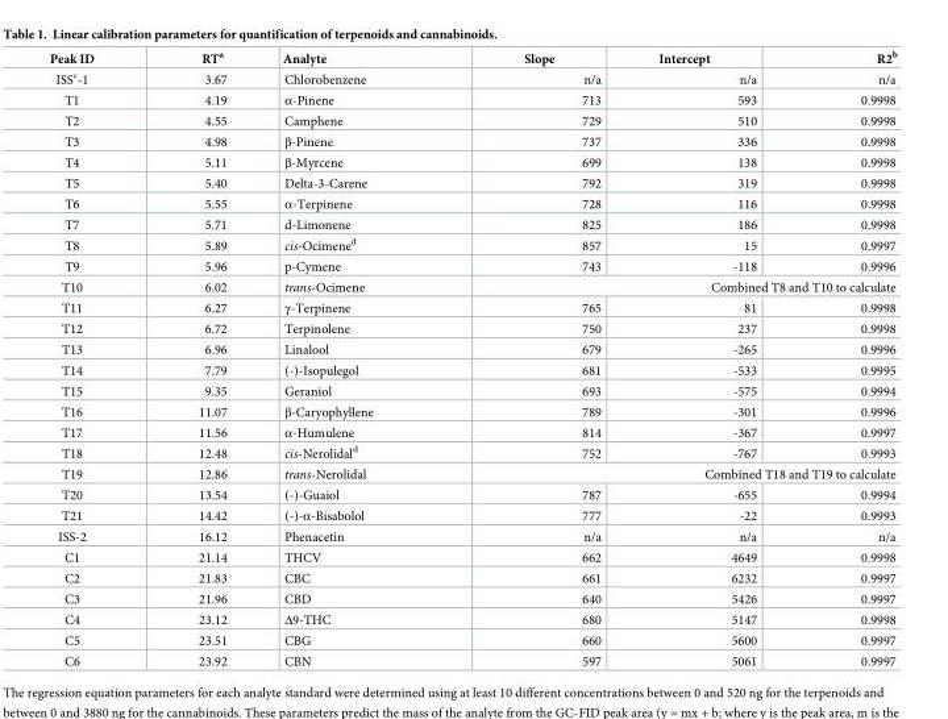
<table><thead><tr><td>Peak ID</td><td>RT<sup>a</sup></td><td>Analyte</td><td>Slope</td><td>Intercept</td><td>R2<sup>b</sup></td></tr></thead><tbody><tr><td>ISS<sup>c</sup>-1</td><td>3.67</td><td>Chlorobenzene</td><td>n/a</td><td>n/a</td><td>n/a</td></tr><tr><td>T1</td><td>4.19</td><td>α-Pinene</td><td>713</td><td>593</td><td>0.9998</td></tr><tr><td>T2</td><td>4.55</td><td>Camphene</td><td>729</td><td>510</td><td>0.9998</td></tr><tr><td>T3</td><td>4.98</td><td>β-Pinene</td><td>737</td><td>336</td><td>0.9998</td></tr><tr><td>T4</td><td>5.11</td><td>β-Myrcene</td><td>699</td><td>138</td><td>0.9998</td></tr><tr><td>T5</td><td>5.40</td><td>Delta-3-Carene</td><td>792</td><td>319</td><td>0.9998</td></tr><tr><td>T6</td><td>5.55</td><td>α-Terpinene</td><td>728</td><td>116</td><td>0.9998</td></tr><tr><td>T7</td><td>5.71</td><td>d-Limonene</td><td>825</td><td>186</td><td>0.9998</td></tr><tr><td>T8</td><td>5.89</td><td>cis-Ocimene<sup>d</sup></td><td>857</td><td>15</td><td>0.9997</td></tr><tr><td>T9</td><td>5.96</td><td>p-Cymene</td><td>743</td><td>-118</td><td>0.9996</td></tr><tr><td>T10</td><td>6.02</td><td>trans-Ocimene</td><td colspan="3">Combined T8 and T10 to calculate</td></tr><tr><td>T11</td><td>6.27</td><td>γ-Terpinene</td><td>765</td><td>81</td><td>0.9998</td></tr><tr><td>T12</td><td>6.72</td><td>Terpinolene</td><td>750</td><td>237</td><td>0.9998</td></tr><tr><td>T13</td><td>6.96</td><td>Linalool</td><td>679</td><td>-265</td><td>0.9996</td></tr><tr><td>T14</td><td>7.79</td><td>(-)-Isopulegol</td><td>681</td><td>-533</td><td>0.9995</td></tr><tr><td>T15</td><td>9.35</td><td>Geraniol</td><td>693</td><td>-575</td><td>0.9994</td></tr><tr><td>T16</td><td>11.07</td><td>β-Caryophyllene</td><td>789</td><td>-301</td><td>0.9996</td></tr><tr><td>T17</td><td>11.56</td><td>α-Humulene</td><td>814</td><td>-367</td><td>0.9997</td></tr><tr><td>T18</td><td>12.48</td><td>cis-Nerolidal<sup>d</sup></td><td>752</td><td>-767</td><td>0.9993</td></tr><tr><td>T19</td><td>12.86</td><td>trans-Nerolidal</td><td colspan="3">Combined T18 and T19 to calculate</td></tr><tr><td>T20</td><td>13.54</td><td>(-)-Guaiol</td><td>787</td><td>-655</td><td>0.9994</td></tr><tr><td>T21</td><td>14.42</td><td>(-)-α-Bisabolol</td><td>777</td><td>-22</td><td>0.9993</td></tr><tr><td>ISS-2</td><td>16.12</td><td>Phenacetin</td><td>n/a</td><td>n/a</td><td>n/a</td></tr><tr><td>C1</td><td>21.14</td><td>THCV</td><td>662</td><td>4649</td><td>0.9998</td></tr><tr><td>C2</td><td>21.83</td><td>CBC</td><td>661</td><td>6232</td><td>0.9997</td></tr><tr><td>C3</td><td>21.96</td><td>CBD</td><td>640</td><td>5426</td><td>0.9997</td></tr><tr><td>C4</td><td>23.12</td><td>Δ9-THC</td><td>680</td><td>5147</td><td>0.9998</td></tr><tr><td>C5</td><td>23.51</td><td>CBG</td><td>660</td><td>5600</td><td>0.9997</td></tr><tr><td>C6</td><td>23.92</td><td>CBN</td><td>597</td><td>5061</td><td>0.9997</td></tr></tbody></table>